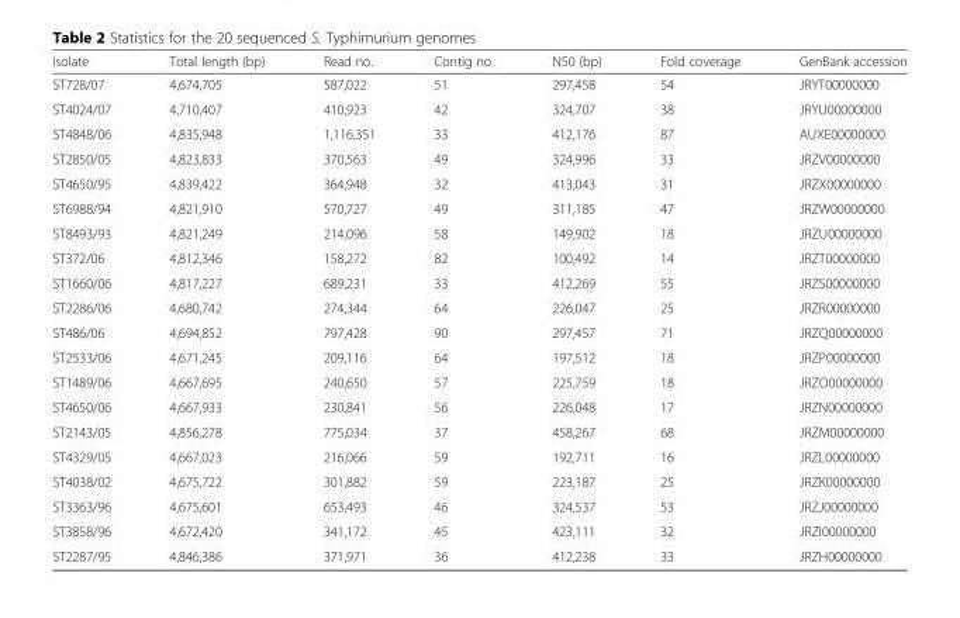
<table><thead><tr><td>Isolate</td><td>Total length (bp)</td><td>Read no.</td><td>Contig no.</td><td>N50 (bp)</td><td>Fold coverage</td><td>GenBank accession</td></tr></thead><tbody><tr><td>ST728/07</td><td>4,674,705</td><td>587,022</td><td>51</td><td>297,458</td><td>54</td><td>JRYT00000000</td></tr><tr><td>ST4024/07</td><td>4,710,407</td><td>410,923</td><td>42</td><td>324,707</td><td>38</td><td>JRYU00000000</td></tr><tr><td>ST4848/06</td><td>4,835,948</td><td>1,116,351</td><td>33</td><td>412,176</td><td>87</td><td>AUXE00000000</td></tr><tr><td>ST2850/05</td><td>4,823,833</td><td>370,563</td><td>49</td><td>324,996</td><td>33</td><td>JRZV00000000</td></tr><tr><td>ST4650/95</td><td>4,839,422</td><td>364,948</td><td>32</td><td>413,043</td><td>31</td><td>JRZX00000000</td></tr><tr><td>ST6988/94</td><td>4,821,910</td><td>570,727</td><td>49</td><td>311,185</td><td>47</td><td>JRZW00000000</td></tr><tr><td>ST8493/93</td><td>4,821,249</td><td>214,096</td><td>58</td><td>149,902</td><td>18</td><td>JRZU00000000</td></tr><tr><td>ST372/06</td><td>4,812,346</td><td>158,272</td><td>82</td><td>100,492</td><td>14</td><td>JRZT00000000</td></tr><tr><td>ST1660/06</td><td>4,817,227</td><td>689,231</td><td>33</td><td>412,269</td><td>55</td><td>JRZS00000000</td></tr><tr><td>ST2286/06</td><td>4,680,742</td><td>274,344</td><td>64</td><td>226,047</td><td>25</td><td>JRZR00000000</td></tr><tr><td>ST486/06</td><td>4,694,852</td><td>797,428</td><td>90</td><td>297,457</td><td>71</td><td>JRZQ00000000</td></tr><tr><td>ST2533/06</td><td>4,671,245</td><td>209,116</td><td>64</td><td>197,512</td><td>18</td><td>JRZP00000000</td></tr><tr><td>ST1489/06</td><td>4,667,695</td><td>240,650</td><td>57</td><td>225,759</td><td>18</td><td>JRZO00000000</td></tr><tr><td>ST4650/06</td><td>4,667,933</td><td>230,841</td><td>56</td><td>226,048</td><td>17</td><td>JRZN00000000</td></tr><tr><td>ST2143/05</td><td>4,856,278</td><td>775,034</td><td>37</td><td>458,267</td><td>68</td><td>JRZM00000000</td></tr><tr><td>ST4329/05</td><td>4,667,023</td><td>216,066</td><td>59</td><td>192,711</td><td>16</td><td>JRZL00000000</td></tr><tr><td>ST4038/02</td><td>4,675,722</td><td>301,882</td><td>59</td><td>223,187</td><td>25</td><td>JRZK00000000</td></tr><tr><td>ST3363/96</td><td>4,675,601</td><td>653,493</td><td>46</td><td>324,537</td><td>53</td><td>JRZJ00000000</td></tr><tr><td>ST3858/96</td><td>4,672,420</td><td>341,172</td><td>45</td><td>423,111</td><td>32</td><td>JRZI00000000</td></tr><tr><td>ST2287/95</td><td>4,846,386</td><td>371,971</td><td>36</td><td>412,238</td><td>33</td><td>JRZH00000000</td></tr></tbody></table>